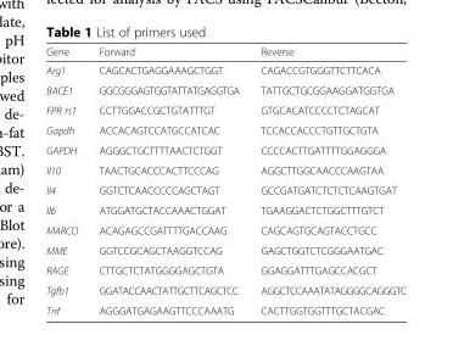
<table><thead><tr><td>Gene</td><td>Forward</td><td>Reverse</td></tr></thead><tbody><tr><td>Arg1</td><td>CAGCACTGAGGAAAGCTGGT</td><td>CAGACCGTGGGTTCTTCACA</td></tr><tr><td>BACE1</td><td>GGCGGGAGTGGTATTATGAGGTGA</td><td>TATTGCTGCGGAAGGATGGTGA</td></tr><tr><td>FPR rs1</td><td>CCTTGGACCGCTGTATTTGT</td><td>GTGCACATCCCCTCTAGCAT</td></tr><tr><td>Gapdh</td><td>ACCACAGTCCATGCCATCAC</td><td>TCCACCACCCTGTTGCTGTA</td></tr><tr><td>GAPDH</td><td>AGGGCTGCTTTTAACTCTGGT</td><td>CCCCACTTGATTTTGGAGGGA</td></tr><tr><td>Il10</td><td>TAACTGCACCCACTTCCCAG</td><td>AGGCTTGGCAACCCAAGTAA</td></tr><tr><td>Il4</td><td>GGTCTCAACCCCCAGCTAGT</td><td>GCCGATGATCTCTCTCAAGTGAT</td></tr><tr><td>Il6</td><td>ATGGATGCTACCAAACTGGAT</td><td>TGAAGGACTCTGGCTTTGTCT</td></tr><tr><td>MARCO</td><td>ACAGAGCCGATTTTGACCAAG</td><td>CAGCAGTGCAGTACCTGCC</td></tr><tr><td>MME</td><td>GGTCCGCAGCTAAGGTCCAG</td><td>GAGCTGGTCTCGGGAATGAC</td></tr><tr><td>RAGE</td><td>CTTGCTCTATGGGGAGCTGTA</td><td>GGAGGATTTGAGCCACGCT</td></tr><tr><td>Tgfb1</td><td>GGATACCAACTATTGCTTCAGCTCC</td><td>AGGCTCCAAATATAGGGGCAGGGTC</td></tr><tr><td>Tnf</td><td>AGGGATGAGAAGTTCCCAAATG</td><td>CACTTGGTGGTTTGCTACGAC</td></tr></tbody></table>